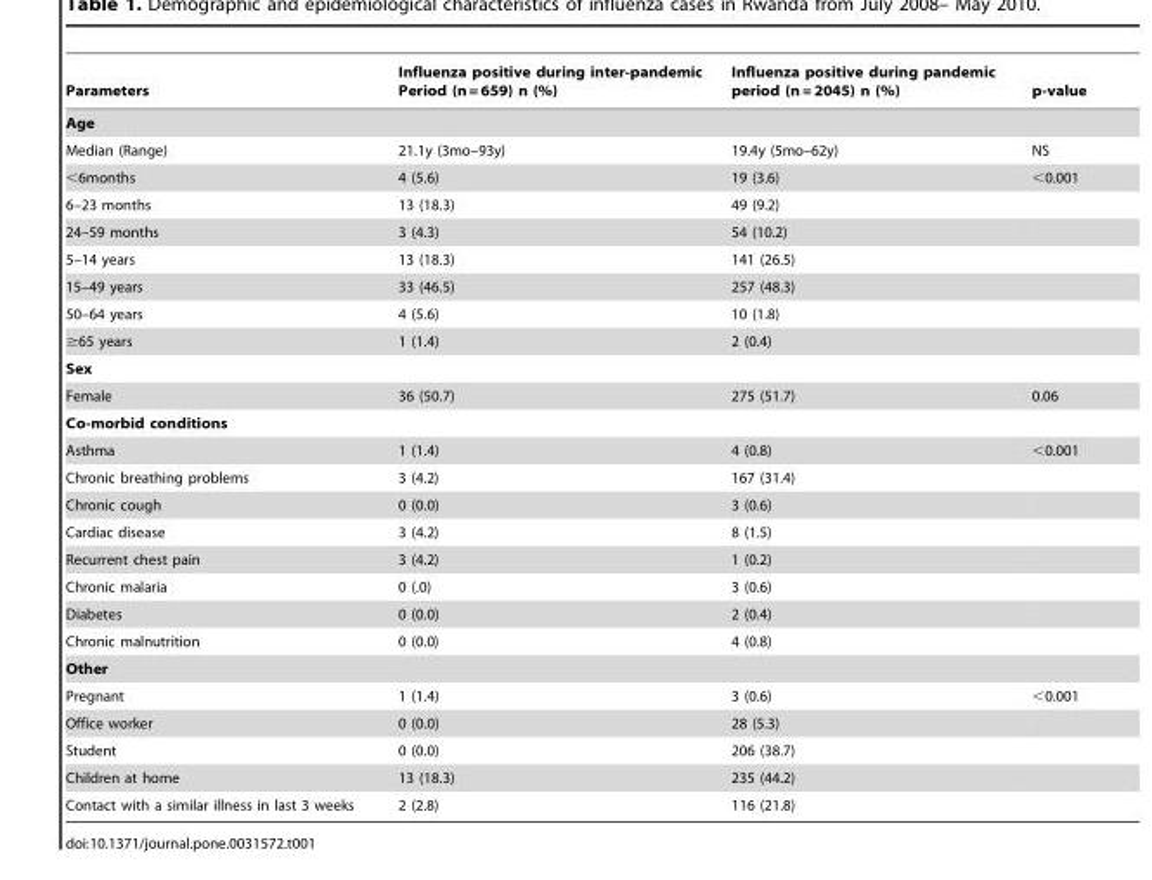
<table><thead><tr><td>Parameters</td><td>Influenza positive during inter-pandemic Period (n = 659) n (%)</td><td>Influenza positive during pandemic period (n = 2045) n (%)</td><td>p-value</td></tr></thead><tbody><tr><td colspan="4">Age</td></tr><tr><td>Median (Range)</td><td>21.1y (3mo–93y)</td><td>19.4y (5mo–62y)</td><td>NS</td></tr><tr><td>&lt;6months</td><td>4 (5.6)</td><td>19 (3.6)</td><td>&lt;0.001</td></tr><tr><td>6–23 months</td><td>13 (18.3)</td><td>49 (9.2)</td><td></td></tr><tr><td>24–59 months</td><td>3 (4.3)</td><td>54 (10.2)</td><td></td></tr><tr><td>5–14 years</td><td>13 (18.3)</td><td>141 (26.5)</td><td></td></tr><tr><td>15–49 years</td><td>33 (46.5)</td><td>257 (48.3)</td><td></td></tr><tr><td>50–64 years</td><td>4 (5.6)</td><td>10 (1.8)</td><td></td></tr><tr><td>≥65 years</td><td>1 (1.4)</td><td>2 (0.4)</td><td></td></tr><tr><td colspan="4">Sex</td></tr><tr><td>Female</td><td>36 (50.7)</td><td>275 (51.7)</td><td>0.06</td></tr><tr><td colspan="4">Co-morbid conditions</td></tr><tr><td>Asthma</td><td>1 (1.4)</td><td>4 (0.8)</td><td>&lt;0.001</td></tr><tr><td>Chronic breathing problems</td><td>3 (4.2)</td><td>167 (31.4)</td><td></td></tr><tr><td>Chronic cough</td><td>0 (0.0)</td><td>3 (0.6)</td><td></td></tr><tr><td>Cardiac disease</td><td>3 (4.2)</td><td>8 (1.5)</td><td></td></tr><tr><td>Recurrent chest pain</td><td>3 (4.2)</td><td>1 (0.2)</td><td></td></tr><tr><td>Chronic malaria</td><td>0 (.0)</td><td>3 (0.6)</td><td></td></tr><tr><td>Diabetes</td><td>0 (0.0)</td><td>2 (0.4)</td><td></td></tr><tr><td>Chronic malnutrition</td><td>0 (0.0)</td><td>4 (0.8)</td><td></td></tr><tr><td colspan="4">Other</td></tr><tr><td>Pregnant</td><td>1 (1.4)</td><td>3 (0.6)</td><td>&lt;0.001</td></tr><tr><td>Office worker</td><td>0 (0.0)</td><td>28 (5.3)</td><td></td></tr><tr><td>Student</td><td>0 (0.0)</td><td>206 (38.7)</td><td></td></tr><tr><td>Children at home</td><td>13 (18.3)</td><td>235 (44.2)</td><td></td></tr><tr><td>Contact with a similar illness in last 3 weeks</td><td>2 (2.8)</td><td>116 (21.8)</td><td></td></tr></tbody></table>